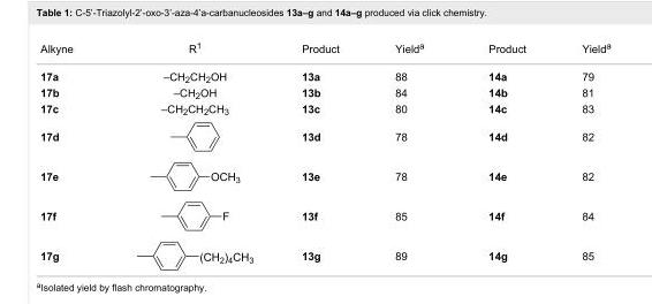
<table><tbody><tr><td>Alkyne</td><td>R<sup>1</sup></td><td>Product</td><td>Yield<sup>a</sup></td><td>Product</td><td>Yield<sup>a</sup></td></tr><tr><td>17a</td><td>–CH<sub>2</sub>CH<sub>2</sub>OH</td><td>13a</td><td>88</td><td>14a</td><td>79</td></tr><tr><td>17b</td><td>–CH<sub>2</sub>OH</td><td>13b</td><td>84</td><td>14b</td><td>81</td></tr><tr><td>17c</td><td>–CH<sub>2</sub>CH<sub>2</sub>CH<sub>3</sub></td><td>13c</td><td>80</td><td>14c</td><td>83</td></tr><tr><td>17d</td><td></td><td>13d</td><td>78</td><td>14d</td><td>82</td></tr><tr><td>17e</td><td></td><td>13e</td><td>78</td><td>14e</td><td>82</td></tr><tr><td>17f</td><td></td><td>13f</td><td>85</td><td>14f</td><td>84</td></tr><tr><td>17g</td><td></td><td>13g</td><td>89</td><td>14g</td><td>85</td></tr></tbody></table>